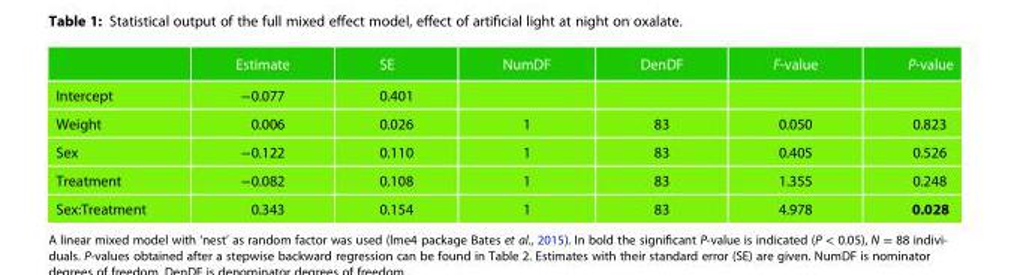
<table><thead><tr><td></td><td>Estimate</td><td>SE</td><td>NumDF</td><td>DenDF</td><td>F-value</td><td>P-value</td></tr></thead><tbody><tr><td>Intercept</td><td>−0.077</td><td>0.401</td><td></td><td></td><td></td><td></td></tr><tr><td>Weight</td><td>0.006</td><td>0.026</td><td>1</td><td>83</td><td>0.050</td><td>0.823</td></tr><tr><td>Sex</td><td>−0.122</td><td>0.110</td><td>1</td><td>83</td><td>0.405</td><td>0.526</td></tr><tr><td>Treatment</td><td>−0.082</td><td>0.108</td><td>1</td><td>83</td><td>1.355</td><td>0.248</td></tr><tr><td>Sex:Treatment</td><td>0.343</td><td>0.154</td><td>1</td><td>83</td><td>4.978</td><td>0.028</td></tr></tbody></table>